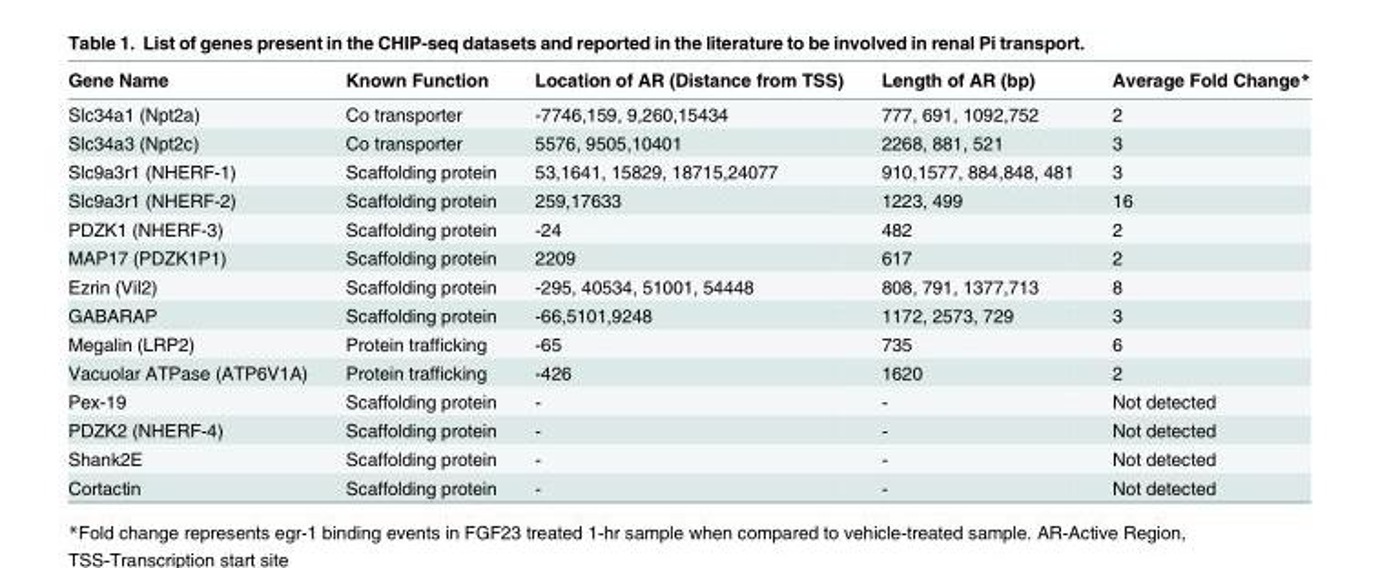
<table><thead><tr><td>Gene Name</td><td>Known Function</td><td>Location of AR (Distance from TSS)</td><td>Length of AR (bp)</td><td>Average Fold Change*</td></tr></thead><tbody><tr><td>Slc34a1 (Npt2a)</td><td>Co transporter</td><td>-7746,159, 9,260,15434</td><td>777, 691, 1092,752</td><td>2</td></tr><tr><td>Slc34a3 (Npt2c)</td><td>Co transporter</td><td>5576, 9505,10401</td><td>2268, 881, 521</td><td>3</td></tr><tr><td>Slc9a3r1 (NHERF-1)</td><td>Scaffolding protein</td><td>53,1641, 15829, 18715,24077</td><td>910,1577, 884,848, 481</td><td>3</td></tr><tr><td>Slc9a3r1 (NHERF-2)</td><td>Scaffolding protein</td><td>259,17633</td><td>1223, 499</td><td>16</td></tr><tr><td>PDZK1 (NHERF-3)</td><td>Scaffolding protein</td><td>-24</td><td>482</td><td>2</td></tr><tr><td>MAP17 (PDZK1P1)</td><td>Scaffolding protein</td><td>2209</td><td>617</td><td>2</td></tr><tr><td>Ezrin (Vil2)</td><td>Scaffolding protein</td><td>-295, 40534, 51001, 54448</td><td>808, 791, 1377,713</td><td>8</td></tr><tr><td>GABARAP</td><td>Scaffolding protein</td><td>-66,5101,9248</td><td>1172, 2573, 729</td><td>3</td></tr><tr><td>Megalin (LRP2)</td><td>Protein trafficking</td><td>-65</td><td>735</td><td>6</td></tr><tr><td>Vacuolar ATPase (ATP6V1A)</td><td>Protein trafficking</td><td>-426</td><td>1620</td><td>2</td></tr><tr><td>Pex-19</td><td>Scaffolding protein</td><td>-</td><td>-</td><td>Not detected</td></tr><tr><td>PDZK2 (NHERF-4)</td><td>Scaffolding protein</td><td>-</td><td>-</td><td>Not detected</td></tr><tr><td>Shank2E</td><td>Scaffolding protein</td><td>-</td><td>-</td><td>Not detected</td></tr><tr><td>Cortactin</td><td>Scaffolding protein</td><td>-</td><td>-</td><td>Not detected</td></tr></tbody></table>